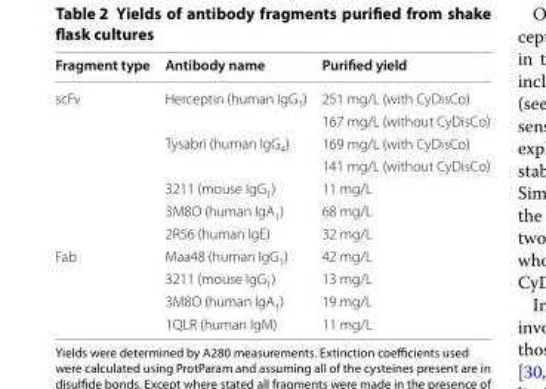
<table><thead><tr><td>Fragment type</td><td>Antibody name</td><td>Purified yield</td></tr></thead><tbody><tr><td rowspan="7">scFv</td><td rowspan="2">Herceptin (human IgG<sub>1</sub>)</td><td>251 mg/L (with CyDisCo)</td></tr><tr><td>167 mg/L (without CyDisCo)</td></tr><tr><td rowspan="2">Tysabri (human IgG<sub>4</sub>)</td><td>169 mg/L (with CyDisCo)</td></tr><tr><td>141 mg/L (without CyDisCo)</td></tr><tr><td>3211 (mouse IgG<sub>1</sub>)</td><td>11 mg/L</td></tr><tr><td>3M8O (human IgA<sub>1</sub>)</td><td>68 mg/L</td></tr><tr><td>2R56 (human IgE)</td><td>32 mg/L</td></tr><tr><td rowspan="4">Fab</td><td>Maa48 (human IgG<sub>1</sub>)</td><td>42 mg/L</td></tr><tr><td>3211 (mouse IgG<sub>1</sub>)</td><td>13 mg/L</td></tr><tr><td>3M8O (human IgA<sub>1</sub>)</td><td>19 mg/L</td></tr><tr><td>1QLR (human IgM)</td><td>11 mg/L</td></tr></tbody></table>